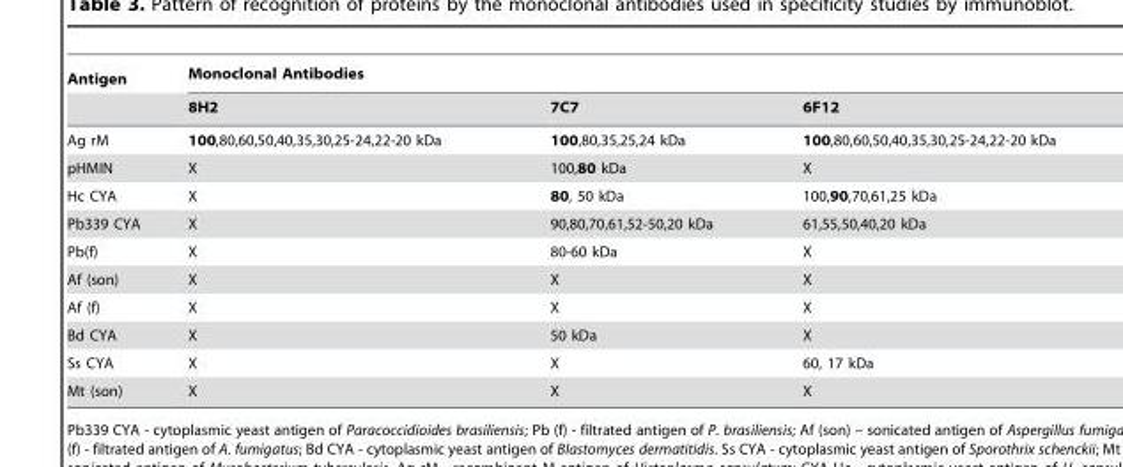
<table><thead><tr><td rowspan="2">Antigen</td><td colspan="3">Monoclonal Antibodies</td></tr><tr><td>8H2</td><td>7C7</td><td>6F12</td></tr></thead><tbody><tr><td>Ag rM</td><td>100,80,60,50,40,35,30,25-24,22-20 kDa</td><td>100,80,35,25,24 kDa</td><td>100,80,60,50,40,35,30,25-24,22-20 kDa</td></tr><tr><td>pHMIN</td><td>X</td><td>100,80 kDa</td><td>X</td></tr><tr><td>Hc CYA</td><td>X</td><td>80, 50 kDa</td><td>100,90,70,61,25 kDa</td></tr><tr><td>Pb339 CYA</td><td>X</td><td>90,80,70,61,52-50,20 kDa</td><td>61,55,50,40,20 kDa</td></tr><tr><td>Pb(f)</td><td>X</td><td>80-60 kDa</td><td>X</td></tr><tr><td>Af (son)</td><td>X</td><td>X</td><td>X</td></tr><tr><td>Af (f)</td><td>X</td><td>X</td><td>X</td></tr><tr><td>Bd CYA</td><td>X</td><td>50 kDa</td><td>X</td></tr><tr><td>Ss CYA</td><td>X</td><td>X</td><td>60, 17 kDa</td></tr><tr><td>Mt (son)</td><td>X</td><td>X</td><td>X</td></tr></tbody></table>